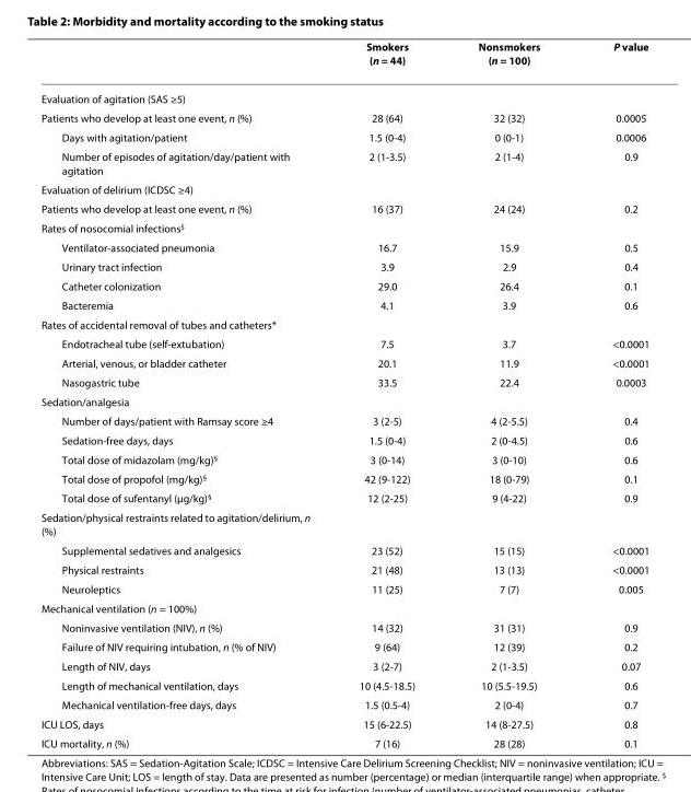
<table><thead><tr><td></td><td>Smokers (n = 44)</td><td>Nonsmokers (n = 100)</td><td>P value</td></tr></thead><tbody><tr><td colspan="4">Evaluation of agitation (SAS ≥5)</td></tr><tr><td>Patients who develop at least one event, n (%)</td><td>28 (64)</td><td>32 (32)</td><td>0.0005</td></tr><tr><td>Days with agitation/patient</td><td>1.5 (0-4)</td><td>0 (0-1)</td><td>0.0006</td></tr><tr><td>Number of episodes of agitation/day/patient with agitation</td><td>2 (1-3.5)</td><td>2 (1-4)</td><td>0.9</td></tr><tr><td colspan="4">Evaluation of delirium (ICDSC ≥4)</td></tr><tr><td>Patients who develop at least one event, n (%)</td><td>16 (37)</td><td>24 (24)</td><td>0.2</td></tr><tr><td colspan="4">Rates of nosocomial infections<sup>$</sup></td></tr><tr><td>Ventilator-associated pneumonia</td><td>16.7</td><td>15.9</td><td>0.5</td></tr><tr><td>Urinary tract infection</td><td>3.9</td><td>2.9</td><td>0.4</td></tr><tr><td>Catheter colonization</td><td>29.0</td><td>26.4</td><td>0.1</td></tr><tr><td>Bacteremia</td><td>4.1</td><td>3.9</td><td>0.6</td></tr><tr><td colspan="4">Rates of accidental removal of tubes and catheters*</td></tr><tr><td>Endotracheal tube (self-extubation)</td><td>7.5</td><td>3.7</td><td>&lt;0.0001</td></tr><tr><td>Arterial, venous, or bladder catheter</td><td>20.1</td><td>11.9</td><td>&lt;0.0001</td></tr><tr><td>Nasogastric tube</td><td>33.5</td><td>22.4</td><td>0.0003</td></tr><tr><td colspan="4">Sedation/analgesia</td></tr><tr><td>Number of days/patient with Ramsay score ≥4</td><td>3 (2-5)</td><td>4 (2-5.5)</td><td>0.4</td></tr><tr><td>Sedation-free days, days</td><td>1.5 (0-4)</td><td>2 (0-4.5)</td><td>0.6</td></tr><tr><td>Total dose of midazolam (mg/kg)<sup>§</sup></td><td>3 (0-14)</td><td>3 (0-10)</td><td>0.6</td></tr><tr><td>Total dose of propofol (mg/kg)<sup>§</sup></td><td>42 (9-122)</td><td>18 (0-79)</td><td>0.1</td></tr><tr><td>Total dose of sufentanyl (μg/kg)<sup>§</sup></td><td>12 (2-25)</td><td>9 (4-22)</td><td>0.9</td></tr><tr><td colspan="4">Sedation/physical restraints related to agitation/delirium, n (%)</td></tr><tr><td>Supplemental sedatives and analgesics</td><td>23 (52)</td><td>15 (15)</td><td>&lt;0.0001</td></tr><tr><td>Physical restraints</td><td>21 (48)</td><td>13 (13)</td><td>&lt;0.0001</td></tr><tr><td>Neuroleptics</td><td>11 (25)</td><td>7 (7)</td><td>0.005</td></tr><tr><td colspan="4">Mechanical ventilation (n = 100%)</td></tr><tr><td>Noninvasive ventilation (NIV), n (%)</td><td>14 (32)</td><td>31 (31)</td><td>0.9</td></tr><tr><td>Failure of NIV requiring intubation, n (% of NIV)</td><td>9 (64)</td><td>12 (39)</td><td>0.2</td></tr><tr><td>Length of NIV, days</td><td>3 (2-7)</td><td>2 (1-3.5)</td><td>0.07</td></tr><tr><td>Length of mechanical ventilation, days</td><td>10 (4.5-18.5)</td><td>10 (5.5-19.5)</td><td>0.6</td></tr><tr><td>Mechanical ventilation-free days, days</td><td>1.5 (0.5-4)</td><td>2 (0-4)</td><td>0.7</td></tr><tr><td>ICU LOS, days</td><td>15 (6-22.5)</td><td>14 (8-27.5)</td><td>0.8</td></tr><tr><td>ICU mortality, n (%)</td><td>7 (16)</td><td>28 (28)</td><td>0.1</td></tr></tbody></table>